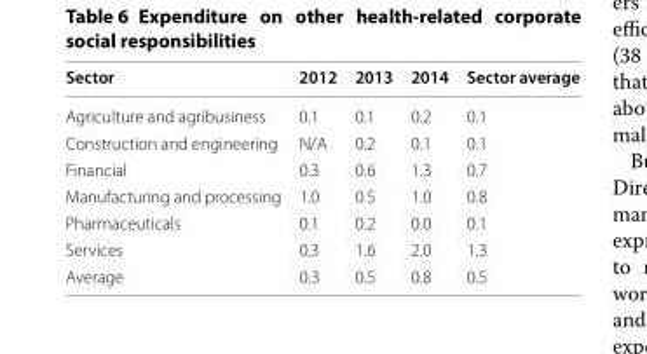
<table><thead><tr><td>Sector</td><td>2012</td><td>2013</td><td>2014</td><td>Sector average</td></tr></thead><tbody><tr><td>Agriculture and agribusiness</td><td>0.1</td><td>0.1</td><td>0.2</td><td>0.1</td></tr><tr><td>Construction and engineering</td><td>N/A</td><td>0.2</td><td>0.1</td><td>0.1</td></tr><tr><td>Financial</td><td>0.3</td><td>0.6</td><td>1.3</td><td>0.7</td></tr><tr><td>Manufacturing and processing</td><td>1.0</td><td>0.5</td><td>1.0</td><td>0.8</td></tr><tr><td>Pharmaceuticals</td><td>0.1</td><td>0.2</td><td>0.0</td><td>0.1</td></tr><tr><td>Services</td><td>0.3</td><td>1.6</td><td>2.0</td><td>1.3</td></tr><tr><td>Average</td><td>0.3</td><td>0.5</td><td>0.8</td><td>0.5</td></tr></tbody></table>